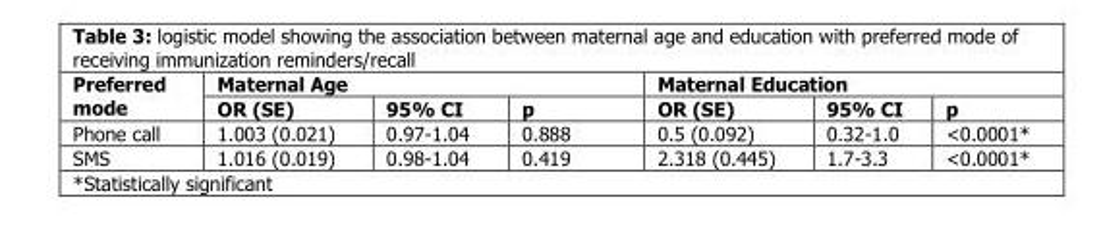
<table><thead><tr><td rowspan="2">Preferred mode</td><td colspan="3">Maternal Age</td><td colspan="3">Maternal Education</td></tr><tr><td>OR (SE)</td><td>95% CI</td><td>p</td><td>OR (SE)</td><td>95% CI</td><td>p</td></tr></thead><tbody><tr><td>Phone call</td><td>1.003 (0.021)</td><td>0.97-1.04</td><td>0.888</td><td>0.5 (0.092)</td><td>0.32-1.0</td><td>&lt;0.0001*</td></tr><tr><td>SMS</td><td>1.016 (0.019)</td><td>0.98-1.04</td><td>0.419</td><td>2.318 (0.445)</td><td>1.7-3.3</td><td>&lt;0.0001*</td></tr></tbody></table>